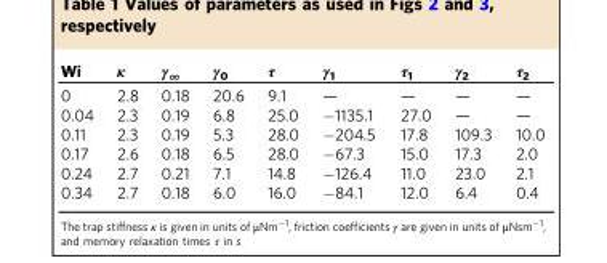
<table><thead><tr><td>Wi</td><td>κ</td><td>γ<sub>∞</sub></td><td>γ<sub>0</sub></td><td>τ</td><td>γ<sub>1</sub></td><td>τ<sub>1</sub></td><td>γ<sub>2</sub></td><td>τ<sub>2</sub></td></tr></thead><tbody><tr><td>0</td><td>2.8</td><td>0.18</td><td>20.6</td><td>9.1</td><td>—</td><td>—</td><td>—</td><td>—</td></tr><tr><td>0.04</td><td>2.3</td><td>0.19</td><td>6.8</td><td>25.0</td><td>−1135.1</td><td>27.0</td><td>—</td><td>—</td></tr><tr><td>0.11</td><td>2.3</td><td>0.19</td><td>5.3</td><td>28.0</td><td>−204.5</td><td>17.8</td><td>109.3</td><td>10.0</td></tr><tr><td>0.17</td><td>2.6</td><td>0.18</td><td>6.5</td><td>28.0</td><td>−67.3</td><td>15.0</td><td>17.3</td><td>2.0</td></tr><tr><td>0.24</td><td>2.7</td><td>0.21</td><td>7.1</td><td>14.8</td><td>−126.4</td><td>11.0</td><td>23.0</td><td>2.1</td></tr><tr><td>0.34</td><td>2.7</td><td>0.18</td><td>6.0</td><td>16.0</td><td>−84.1</td><td>12.0</td><td>6.4</td><td>0.4</td></tr></tbody></table>